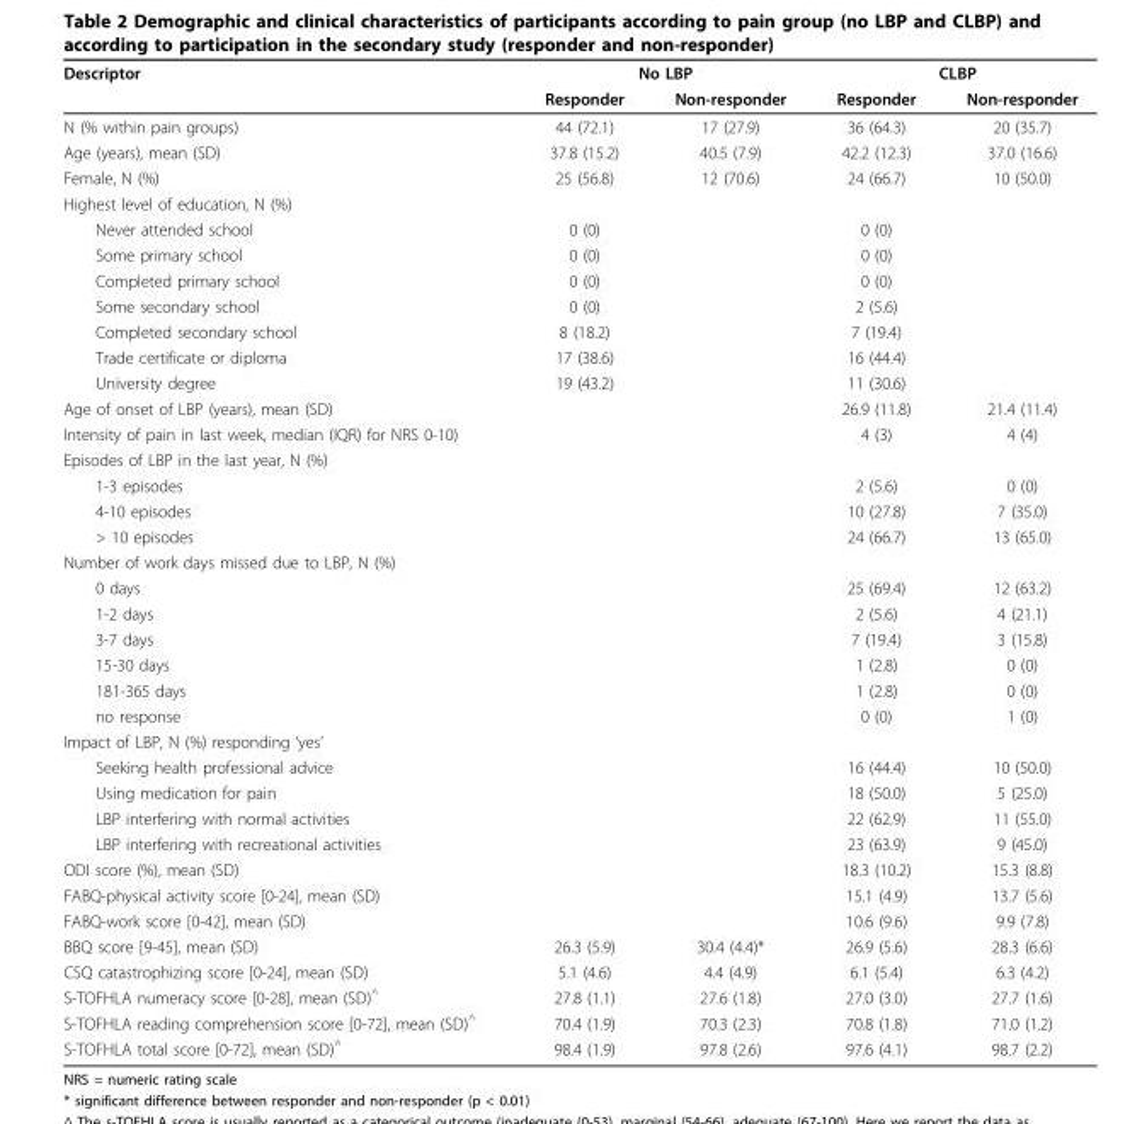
<table><thead><tr><td rowspan="2">Descriptor</td><td colspan="2">No LBP</td><td colspan="2">CLBP</td></tr><tr><td>Responder</td><td>Non-responder</td><td>Responder</td><td>Non-responder</td></tr></thead><tbody><tr><td>N (% within pain groups)</td><td>44 (72.1)</td><td>17 (27.9)</td><td>36 (64.3)</td><td>20 (35.7)</td></tr><tr><td>Age (years), mean (SD)</td><td>37.8 (15.2)</td><td>40.5 (7.9)</td><td>42.2 (12.3)</td><td>37.0 (16.6)</td></tr><tr><td>Female, N (%)</td><td>25 (56.8)</td><td>12 (70.6)</td><td>24 (66.7)</td><td>10 (50.0)</td></tr><tr><td colspan="5">Highest level of education, N (%)</td></tr><tr><td>Never attended school</td><td>0 (0)</td><td></td><td>0 (0)</td><td></td></tr><tr><td>Some primary school</td><td>0 (0)</td><td></td><td>0 (0)</td><td></td></tr><tr><td>Completed primary school</td><td>0 (0)</td><td></td><td>0 (0)</td><td></td></tr><tr><td>Some secondary school</td><td>0 (0)</td><td></td><td>2 (5.6)</td><td></td></tr><tr><td>Completed secondary school</td><td>8 (18.2)</td><td></td><td>7 (19.4)</td><td></td></tr><tr><td>Trade certificate or diploma</td><td>17 (38.6)</td><td></td><td>16 (44.4)</td><td></td></tr><tr><td>University degree</td><td>19 (43.2)</td><td></td><td>11 (30.6)</td><td></td></tr><tr><td>Age of onset of LBP (years), mean (SD)</td><td></td><td></td><td>26.9 (11.8)</td><td>21.4 (11.4)</td></tr><tr><td>Intensity of pain in last week, median (IQR) for NRS 0-10)</td><td></td><td></td><td>4 (3)</td><td>4 (4)</td></tr><tr><td colspan="5">Episodes of LBP in the last year, N (%)</td></tr><tr><td>1-3 episodes</td><td></td><td></td><td>2 (5.6)</td><td>0 (0)</td></tr><tr><td>4-10 episodes</td><td></td><td></td><td>10 (27.8)</td><td>7 (35.0)</td></tr><tr><td>&gt; 10 episodes</td><td></td><td></td><td>24 (66.7)</td><td>13 (65.0)</td></tr><tr><td colspan="5">Number of work days missed due to LBP, N (%)</td></tr><tr><td>0 days</td><td></td><td></td><td>25 (69.4)</td><td>12 (63.2)</td></tr><tr><td>1-2 days</td><td></td><td></td><td>2 (5.6)</td><td>4 (21.1)</td></tr><tr><td>3-7 days</td><td></td><td></td><td>7 (19.4)</td><td>3 (15.8)</td></tr><tr><td>15-30 days</td><td></td><td></td><td>1 (2.8)</td><td>0 (0)</td></tr><tr><td>181-365 days</td><td></td><td></td><td>1 (2.8)</td><td>0 (0)</td></tr><tr><td>no response</td><td></td><td></td><td>0 (0)</td><td>1 (0)</td></tr><tr><td colspan="5">Impact of LBP, N (%) responding ‘yes’</td></tr><tr><td>Seeking health professional advice</td><td></td><td></td><td>16 (44.4)</td><td>10 (50.0)</td></tr><tr><td>Using medication for pain</td><td></td><td></td><td>18 (50.0)</td><td>5 (25.0)</td></tr><tr><td>LBP interfering with normal activities</td><td></td><td></td><td>22 (62.9)</td><td>11 (55.0)</td></tr><tr><td>LBP interfering with recreational activities</td><td></td><td></td><td>23 (63.9)</td><td>9 (45.0)</td></tr><tr><td>ODI score (%), mean (SD)</td><td></td><td></td><td>18.3 (10.2)</td><td>15.3 (8.8)</td></tr><tr><td>FABQ-physical activity score [0-24], mean (SD)</td><td></td><td></td><td>15.1 (4.9)</td><td>13.7 (5.6)</td></tr><tr><td>FABQ-work score [0-42], mean (SD)</td><td></td><td></td><td>10.6 (9.6)</td><td>9.9 (7.8)</td></tr><tr><td>BBQ score [9-45], mean (SD)</td><td>26.3 (5.9)</td><td>30.4 (4.4)*</td><td>26.9 (5.6)</td><td>28.3 (6.6)</td></tr><tr><td>CSQ catastrophizing score [0-24], mean (SD)</td><td>5.1 (4.6)</td><td>4.4 (4.9)</td><td>6.1 (5.4)</td><td>6.3 (4.2)</td></tr><tr><td>S-TOFHLA numeracy score [0-28], mean (SD)<sup>^</sup></td><td>27.8 (1.1)</td><td>27.6 (1.8)</td><td>27.0 (3.0)</td><td>27.7 (1.6)</td></tr><tr><td>S-TOFHLA reading comprehension score [0-72], mean (SD)<sup>^</sup></td><td>70.4 (1.9)</td><td>70.3 (2.3)</td><td>70.8 (1.8)</td><td>71.0 (1.2)</td></tr><tr><td>S-TOFHLA total score [0-72], mean (SD)<sup>^</sup></td><td>98.4 (1.9)</td><td>97.8 (2.6)</td><td>97.6 (4.1)</td><td>98.7 (2.2)</td></tr></tbody></table>